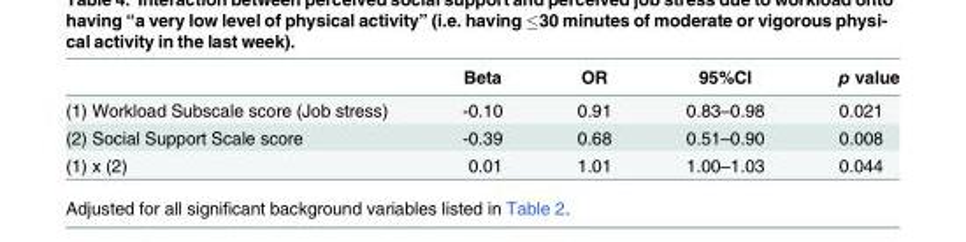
<table><thead><tr><td></td><td>Beta</td><td>OR</td><td>95%CI</td><td>p value</td></tr></thead><tbody><tr><td>(1) Workload Subscale score (Job stress)</td><td>-0.10</td><td>0.91</td><td>0.83–0.98</td><td>0.021</td></tr><tr><td>(2) Social Support Scale score</td><td>-0.39</td><td>0.68</td><td>0.51–0.90</td><td>0.008</td></tr><tr><td>(1) x (2)</td><td>0.01</td><td>1.01</td><td>1.00–1.03</td><td>0.044</td></tr></tbody></table>